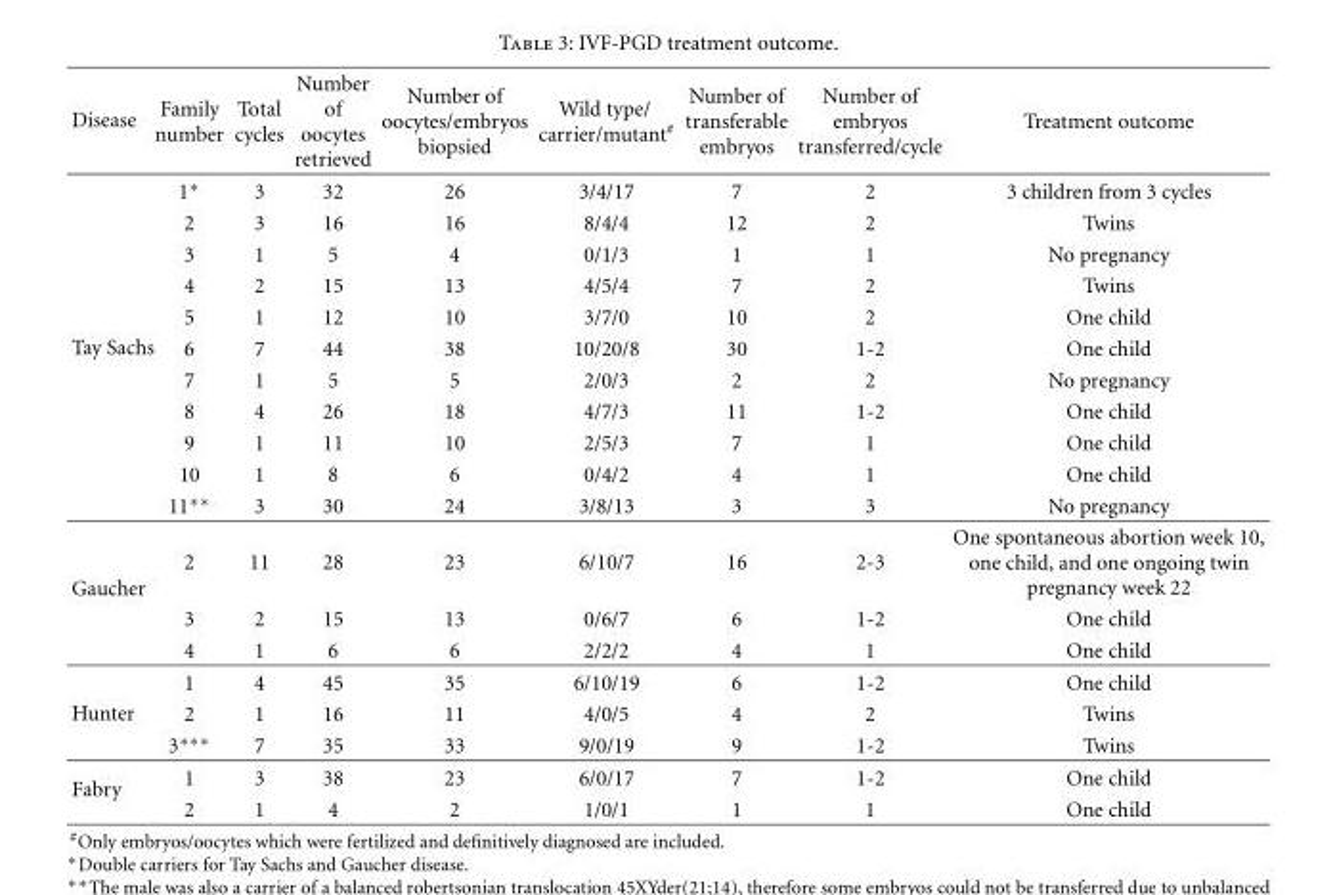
<table><thead><tr><td>Disease</td><td>Family number</td><td>Total cycles</td><td>Number of oocytes retrieved</td><td>Number of oocytes/embryos biopsied</td><td>Wild type/ carrier/mutant<sup>#</sup></td><td>Number of transferable embryos</td><td>Number of embryos transferred/cycle</td><td>Treatment outcome</td></tr></thead><tbody><tr><td></td><td>1∗</td><td>3</td><td>32</td><td>26</td><td>3/4/17</td><td>7</td><td>2</td><td>3 children from 3 cycles</td></tr><tr><td></td><td>2</td><td>3</td><td>16</td><td>16</td><td>8/4/4</td><td>12</td><td>2</td><td>Twins</td></tr><tr><td></td><td>3</td><td>1</td><td>5</td><td>4</td><td>0/1/3</td><td>1</td><td>1</td><td>No pregnancy</td></tr><tr><td></td><td>4</td><td>2</td><td>15</td><td>13</td><td>4/5/4</td><td>7</td><td>2</td><td>Twins</td></tr><tr><td></td><td>5</td><td>1</td><td>12</td><td>10</td><td>3/7/0</td><td>10</td><td>2</td><td>One child</td></tr><tr><td rowspan="6">Tay Sachs</td><td>6</td><td>7</td><td>44</td><td>38</td><td>10/20/8</td><td>30</td><td>1-2</td><td>One child</td></tr><tr><td>7</td><td>1</td><td>5</td><td>5</td><td>2/0/3</td><td>2</td><td>2</td><td>No pregnancy</td></tr><tr><td>8</td><td>4</td><td>26</td><td>18</td><td>4/7/3</td><td>11</td><td>1-2</td><td>One child</td></tr><tr><td>9</td><td>1</td><td>11</td><td>10</td><td>2/5/3</td><td>7</td><td>1</td><td>One child</td></tr><tr><td>10</td><td>1</td><td>8</td><td>6</td><td>0/4/2</td><td>4</td><td>1</td><td>One child</td></tr><tr><td>11∗∗</td><td>3</td><td>30</td><td>24</td><td>3/8/13</td><td>3</td><td>3</td><td>No pregnancy</td></tr><tr><td rowspan="4">Gaucher</td><td>2</td><td>11</td><td>28</td><td>23</td><td>6/10/7</td><td>16</td><td>2-3</td><td>One spontaneous abortion week 10, one child, and one ongoing twin pregnancy week 22</td></tr><tr><td>3</td><td>2</td><td>15</td><td>13</td><td>0/6/7</td><td>6</td><td>1-2</td><td>One child</td></tr><tr><td>4</td><td>1</td><td>6</td><td>6</td><td>2/2/2</td><td>4</td><td>1</td><td>One child</td></tr><tr><td>1</td><td>4</td><td>45</td><td>35</td><td>6/10/19</td><td>6</td><td>1-2</td><td>One child</td></tr><tr><td rowspan="2">Hunter</td><td>2</td><td>1</td><td>16</td><td>11</td><td>4/0/5</td><td>4</td><td>2</td><td>Twins</td></tr><tr><td>3∗∗∗</td><td>7</td><td>35</td><td>33</td><td>9/0/19</td><td>9</td><td>1-2</td><td>Twins</td></tr><tr><td rowspan="2">Fabry</td><td>1</td><td>3</td><td>38</td><td>23</td><td>6/0/17</td><td>7</td><td>1-2</td><td>One child</td></tr><tr><td>2</td><td>1</td><td>4</td><td>2</td><td>1/0/1</td><td>1</td><td>1</td><td>One child</td></tr></tbody></table>